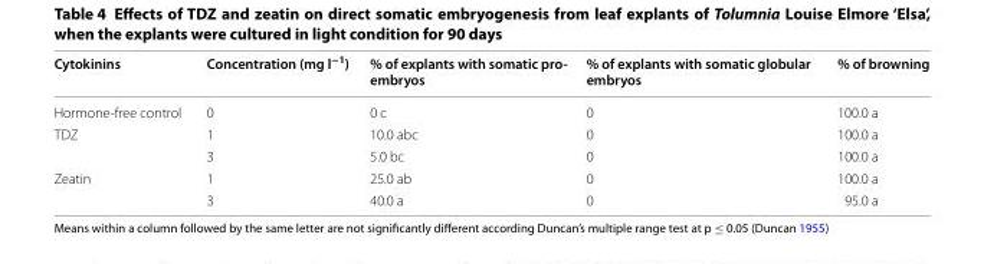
<table><thead><tr><td>Cytokinins</td><td>Concentration (mg l<sup>−1</sup>)</td><td>% of explants with somatic pro‑ embryos</td><td>% of explants with somatic globular embryos</td><td>% of browning</td></tr></thead><tbody><tr><td>Hormone‑free control</td><td>0</td><td>0 c</td><td>0</td><td>100.0 a</td></tr><tr><td rowspan="2">TDZ</td><td>1</td><td>10.0 abc</td><td>0</td><td>100.0 a</td></tr><tr><td>3</td><td>5.0 bc</td><td>0</td><td>100.0 a</td></tr><tr><td rowspan="2">Zeatin</td><td>1</td><td>25.0 ab</td><td>0</td><td>100.0 a</td></tr><tr><td>3</td><td>40.0 a</td><td>0</td><td>95.0 a</td></tr></tbody></table>